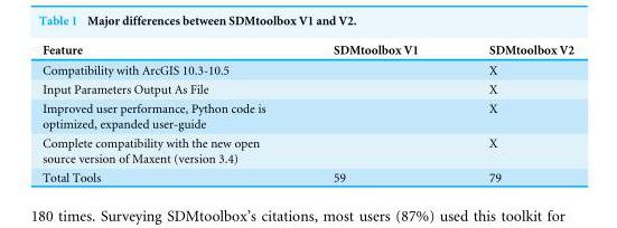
<table><thead><tr><td>Feature</td><td>SDMtoolbox V1</td><td>SDMtoolbox V2</td></tr></thead><tbody><tr><td>Compatibility with ArcGIS 10.3-10.5</td><td></td><td>X</td></tr><tr><td>Input Parameters Output As File</td><td></td><td>X</td></tr><tr><td>Improved user performance, Python code is optimized, expanded user-guide</td><td></td><td>X</td></tr><tr><td>Complete compatibility with the new open source version of Maxent (version 3.4)</td><td></td><td>X</td></tr><tr><td>Total Tools</td><td>59</td><td>79</td></tr></tbody></table>